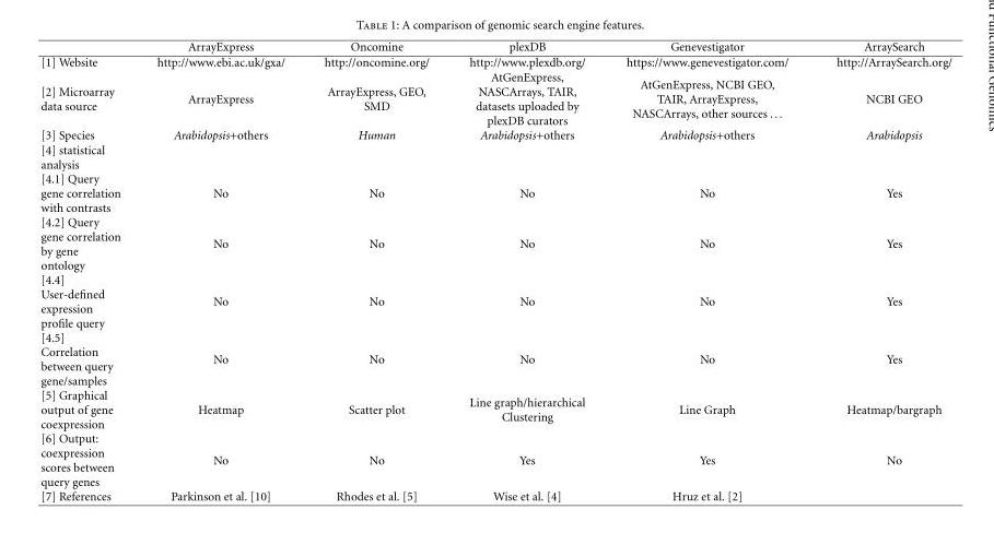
<table><thead><tr><td></td><td>ArrayExpress</td><td>Oncomine</td><td>plexDB</td><td>Genevestigator</td><td>ArraySearch</td></tr></thead><tbody><tr><td>[1] Website</td><td>http://www.ebi.ac.uk/gxa/</td><td>http://oncomine.org/</td><td>http://www.plexdb.org/</td><td>https://www.genevestigator.com/</td><td>http://ArraySearch.org/</td></tr><tr><td>[2] Microarray data source</td><td>ArrayExpress</td><td>ArrayExpress, GEO, SMD</td><td>AtGenExpress, NASCArrays, TAIR, datasets uploaded by plexDB curators</td><td>AtGenExpress, NCBI GEO, TAIR, ArrayExpress, NASCArrays, other sources ...</td><td>NCBI GEO</td></tr><tr><td>[3] Species</td><td>Arabidopsis+others</td><td>Human</td><td>Arabidopsis+others</td><td>Arabidopsis+others</td><td>Arabidopsis</td></tr><tr><td colspan="6">[4] statistical analysis</td></tr><tr><td>[4.1] Query gene correlation with contrasts</td><td>No</td><td>No</td><td>No</td><td>No</td><td>Yes</td></tr><tr><td>[4.2] Query gene correlation by gene ontology</td><td>No</td><td>No</td><td>No</td><td>No</td><td>Yes</td></tr><tr><td>[4.4] User-defined expression profile query</td><td>No</td><td>No</td><td>No</td><td>No</td><td>Yes</td></tr><tr><td>[4.5] Correlation between query gene/samples</td><td>No</td><td>No</td><td>No</td><td>No</td><td>Yes</td></tr><tr><td>[5] Graphical output of gene coexpression</td><td>Heatmap</td><td>Scatter plot</td><td>Line graph/hierarchical Clustering</td><td>Line Graph</td><td>Heatmap/bargraph</td></tr><tr><td>[6] Output: coexpression scores between query genes</td><td>No</td><td>No</td><td>Yes</td><td>Yes</td><td>No</td></tr><tr><td>[7] References</td><td>Parkinson et al. [10]</td><td>Rhodes et al. [5]</td><td>Wise et al. [4]</td><td>Hruz et al. [2]</td><td></td></tr></tbody></table>